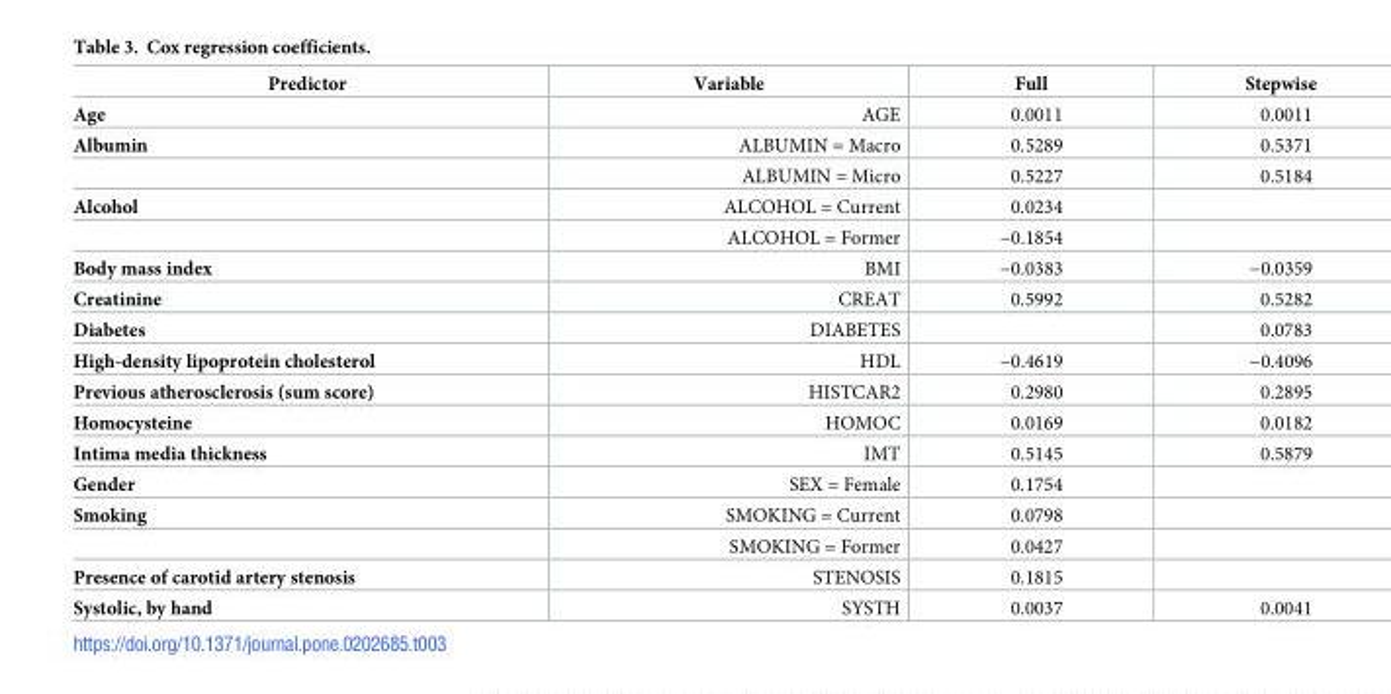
<table><thead><tr><td>Predictor</td><td>Variable</td><td>Full</td><td>Stepwise</td></tr></thead><tbody><tr><td>Age</td><td>AGE</td><td>0.0011</td><td>0.0011</td></tr><tr><td rowspan="2">Albumin</td><td>ALBUMIN = Macro</td><td>0.5289</td><td>0.5371</td></tr><tr><td>ALBUMIN = Micro</td><td>0.5227</td><td>0.5184</td></tr><tr><td rowspan="2">Alcohol</td><td>ALCOHOL = Current</td><td>0.0234</td><td></td></tr><tr><td>ALCOHOL = Former</td><td>−0.1854</td><td></td></tr><tr><td>Body mass index</td><td>BMI</td><td>−0.0383</td><td>−0.0359</td></tr><tr><td>Creatinine</td><td>CREAT</td><td>0.5992</td><td>0.5282</td></tr><tr><td>Diabetes</td><td>DIABETES</td><td></td><td>0.0783</td></tr><tr><td>High-density lipoprotein cholesterol</td><td>HDL</td><td>−0.4619</td><td>−0.4096</td></tr><tr><td>Previous atherosclerosis (sum score)</td><td>HISTCAR2</td><td>0.2980</td><td>0.2895</td></tr><tr><td>Homocysteine</td><td>HOMOC</td><td>0.0169</td><td>0.0182</td></tr><tr><td>Intima media thickness</td><td>IMT</td><td>0.5145</td><td>0.5879</td></tr><tr><td>Gender</td><td>SEX = Female</td><td>0.1754</td><td></td></tr><tr><td rowspan="2">Smoking</td><td>SMOKING = Current</td><td>0.0798</td><td></td></tr><tr><td>SMOKING = Former</td><td>0.0427</td><td></td></tr><tr><td>Presence of carotid artery stenosis</td><td>STENOSIS</td><td>0.1815</td><td></td></tr><tr><td>Systolic, by hand</td><td>SYSTH</td><td>0.0037</td><td>0.0041</td></tr></tbody></table>